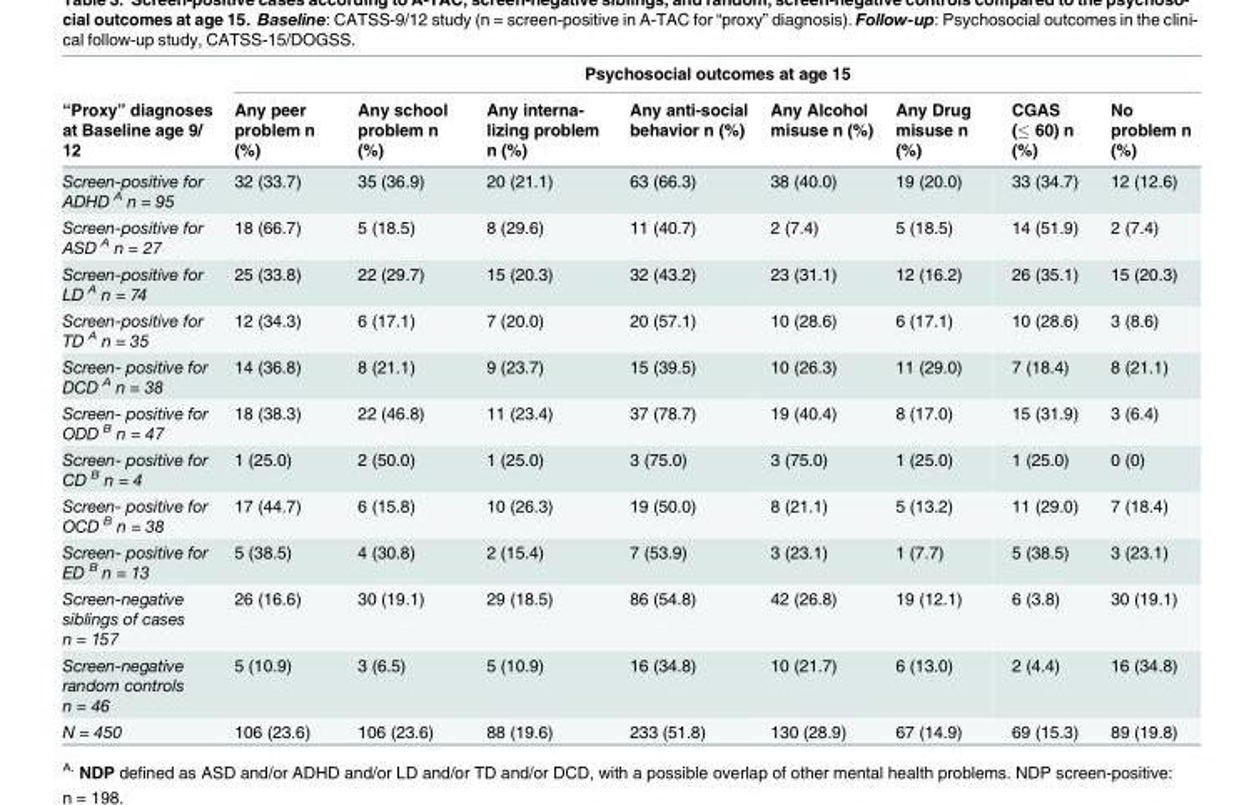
<table><thead><tr><td rowspan="2">“Proxy” diagnoses at Baseline age 9/ 12</td><td colspan="8">Psychosocial outcomes at age 15</td></tr><tr><td>Any peer problem n (%)</td><td>Any school problem n (%)</td><td>Any interna- lizing problem n (%)</td><td>Any anti-social behavior n (%)</td><td>Any Alcohol misuse n (%)</td><td>Any Drug misuse n (%)</td><td>CGAS (≤ 60) n (%)</td><td>No problem n (%)</td></tr></thead><tbody><tr><td>Screen-positive for ADHD <sup>A</sup> n = 95</td><td>32 (33.7)</td><td>35 (36.9)</td><td>20 (21.1)</td><td>63 (66.3)</td><td>38 (40.0)</td><td>19 (20.0)</td><td>33 (34.7)</td><td>12 (12.6)</td></tr><tr><td>Screen-positive for ASD <sup>A</sup> n = 27</td><td>18 (66.7)</td><td>5 (18.5)</td><td>8 (29.6)</td><td>11 (40.7)</td><td>2 (7.4)</td><td>5 (18.5)</td><td>14 (51.9)</td><td>2 (7.4)</td></tr><tr><td>Screen-positive for LD <sup>A</sup> n = 74</td><td>25 (33.8)</td><td>22 (29.7)</td><td>15 (20.3)</td><td>32 (43.2)</td><td>23 (31.1)</td><td>12 (16.2)</td><td>26 (35.1)</td><td>15 (20.3)</td></tr><tr><td>Screen-positive for TD <sup>A</sup> n = 35</td><td>12 (34.3)</td><td>6 (17.1)</td><td>7 (20.0)</td><td>20 (57.1)</td><td>10 (28.6)</td><td>6 (17.1)</td><td>10 (28.6)</td><td>3 (8.6)</td></tr><tr><td>Screen- positive for DCD <sup>A</sup> n = 38</td><td>14 (36.8)</td><td>8 (21.1)</td><td>9 (23.7)</td><td>15 (39.5)</td><td>10 (26.3)</td><td>11 (29.0)</td><td>7 (18.4)</td><td>8 (21.1)</td></tr><tr><td>Screen- positive for ODD <sup>B</sup> n = 47</td><td>18 (38.3)</td><td>22 (46.8)</td><td>11 (23.4)</td><td>37 (78.7)</td><td>19 (40.4)</td><td>8 (17.0)</td><td>15 (31.9)</td><td>3 (6.4)</td></tr><tr><td>Screen- positive for CD <sup>B</sup> n = 4</td><td>1 (25.0)</td><td>2 (50.0)</td><td>1 (25.0)</td><td>3 (75.0)</td><td>3 (75.0)</td><td>1 (25.0)</td><td>1 (25.0)</td><td>0 (0)</td></tr><tr><td>Screen- positive for OCD <sup>B</sup> n = 38</td><td>17 (44.7)</td><td>6 (15.8)</td><td>10 (26.3)</td><td>19 (50.0)</td><td>8 (21.1)</td><td>5 (13.2)</td><td>11 (29.0)</td><td>7 (18.4)</td></tr><tr><td>Screen- positive for ED <sup>B</sup> n = 13</td><td>5 (38.5)</td><td>4 (30.8)</td><td>2 (15.4)</td><td>7 (53.9)</td><td>3 (23.1)</td><td>1 (7.7)</td><td>5 (38.5)</td><td>3 (23.1)</td></tr><tr><td>Screen-negative siblings of cases n = 157</td><td>26 (16.6)</td><td>30 (19.1)</td><td>29 (18.5)</td><td>86 (54.8)</td><td>42 (26.8)</td><td>19 (12.1)</td><td>6 (3.8)</td><td>30 (19.1)</td></tr><tr><td>Screen-negative random controls n = 46</td><td>5 (10.9)</td><td>3 (6.5)</td><td>5 (10.9)</td><td>16 (34.8)</td><td>10 (21.7)</td><td>6 (13.0)</td><td>2 (4.4)</td><td>16 (34.8)</td></tr><tr><td>N = 450</td><td>106 (23.6)</td><td>106 (23.6)</td><td>88 (19.6)</td><td>233 (51.8)</td><td>130 (28.9)</td><td>67 (14.9)</td><td>69 (15.3)</td><td>89 (19.8)</td></tr></tbody></table>